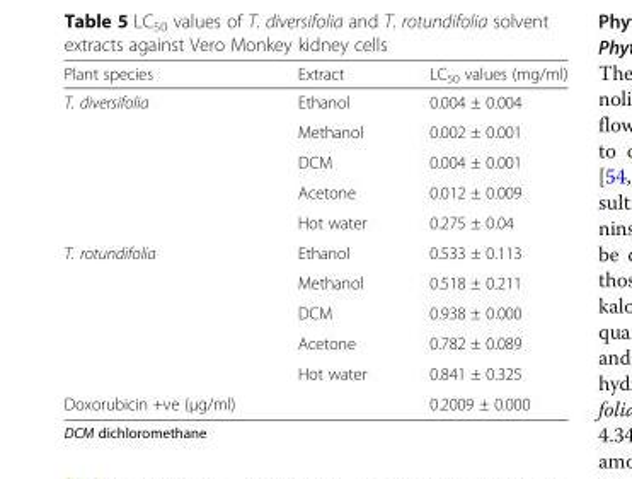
<table><thead><tr><td>Plant species</td><td>Extract</td><td>LC<sub>50</sub> values (mg/ml)</td></tr></thead><tbody><tr><td rowspan="5">T. diversifolia</td><td>Ethanol</td><td>0.004 ± 0.004</td></tr><tr><td>Methanol</td><td>0.002 ± 0.001</td></tr><tr><td>DCM</td><td>0.004 ± 0.001</td></tr><tr><td>Acetone</td><td>0.012 ± 0.009</td></tr><tr><td>Hot water</td><td>0.275 ± 0.04</td></tr><tr><td rowspan="5">T. rotundifolia</td><td>Ethanol</td><td>0.533 ± 0.113</td></tr><tr><td>Methanol</td><td>0.518 ± 0.211</td></tr><tr><td>DCM</td><td>0.938 ± 0.000</td></tr><tr><td>Acetone</td><td>0.782 ± 0.089</td></tr><tr><td>Hot water</td><td>0.841 ± 0.325</td></tr><tr><td>Doxorubicin +ve (μg/ml)</td><td></td><td>0.2009 ± 0.000</td></tr></tbody></table>